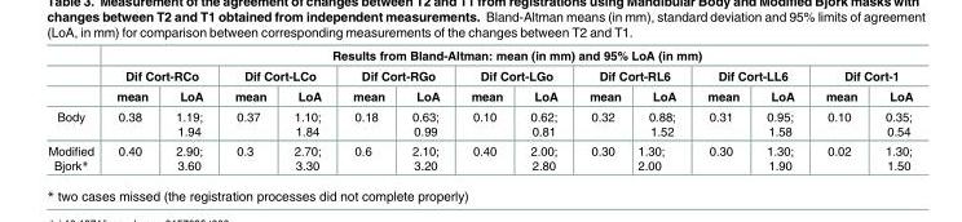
<table><thead><tr><td rowspan="3"></td><td colspan="14">Results from Bland-Altman: mean (in mm) and 95% LoA (in mm)</td></tr><tr><td colspan="2">Dif Cort-RCo</td><td colspan="2">Dif Cort-LCo</td><td colspan="2">Dif Cort-RGo</td><td colspan="2">Dif Cort-LGo</td><td colspan="2">Dif Cort-RL6</td><td colspan="2">Dif Cort-LL6</td><td colspan="2">Dif Cort-1</td></tr><tr><td>mean</td><td>LoA</td><td>mean</td><td>LoA</td><td>mean</td><td>LoA</td><td>mean</td><td>LoA</td><td>mean</td><td>LoA</td><td>mean</td><td>LoA</td><td>mean</td><td>LoA</td></tr></thead><tbody><tr><td>Body</td><td>0.38</td><td>1.19; 1.94</td><td>0.37</td><td>1.10; 1.84</td><td>0.18</td><td>0.63; 0.99</td><td>0.10</td><td>0.62; 0.81</td><td>0.32</td><td>0.88; 1.52</td><td>0.31</td><td>0.95; 1.58</td><td>0.10</td><td>0.35; 0.54</td></tr><tr><td>Modified Bjork*</td><td>0.40</td><td>2.90; 3.60</td><td>0.3</td><td>2.70; 3.30</td><td>0.6</td><td>2.10; 3.20</td><td>0.40</td><td>2.00; 2.80</td><td>0.30</td><td>1.30; 2.00</td><td>0.30</td><td>1.30; 1.90</td><td>0.02</td><td>1.30; 1.50</td></tr></tbody></table>